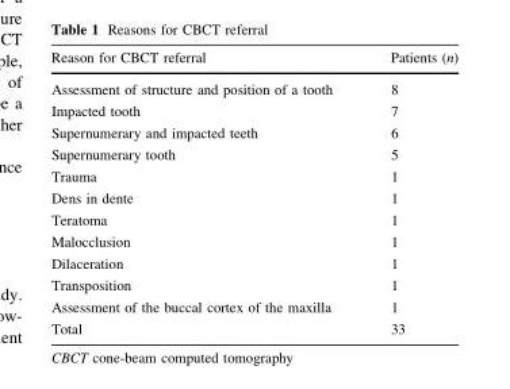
<table><thead><tr><td>Reason for CBCT referral</td><td>Patients (n)</td></tr></thead><tbody><tr><td>Assessment of structure and position of a tooth</td><td>8</td></tr><tr><td>Impacted tooth</td><td>7</td></tr><tr><td>Supernumerary and impacted teeth</td><td>6</td></tr><tr><td>Supernumerary tooth</td><td>5</td></tr><tr><td>Trauma</td><td>1</td></tr><tr><td>Dens in dente</td><td>1</td></tr><tr><td>Teratoma</td><td>1</td></tr><tr><td>Malocclusion</td><td>1</td></tr><tr><td>Dilaceration</td><td>1</td></tr><tr><td>Transposition</td><td>1</td></tr><tr><td>Assessment of the buccal cortex of the maxilla</td><td>1</td></tr><tr><td>Total</td><td>33</td></tr></tbody></table>